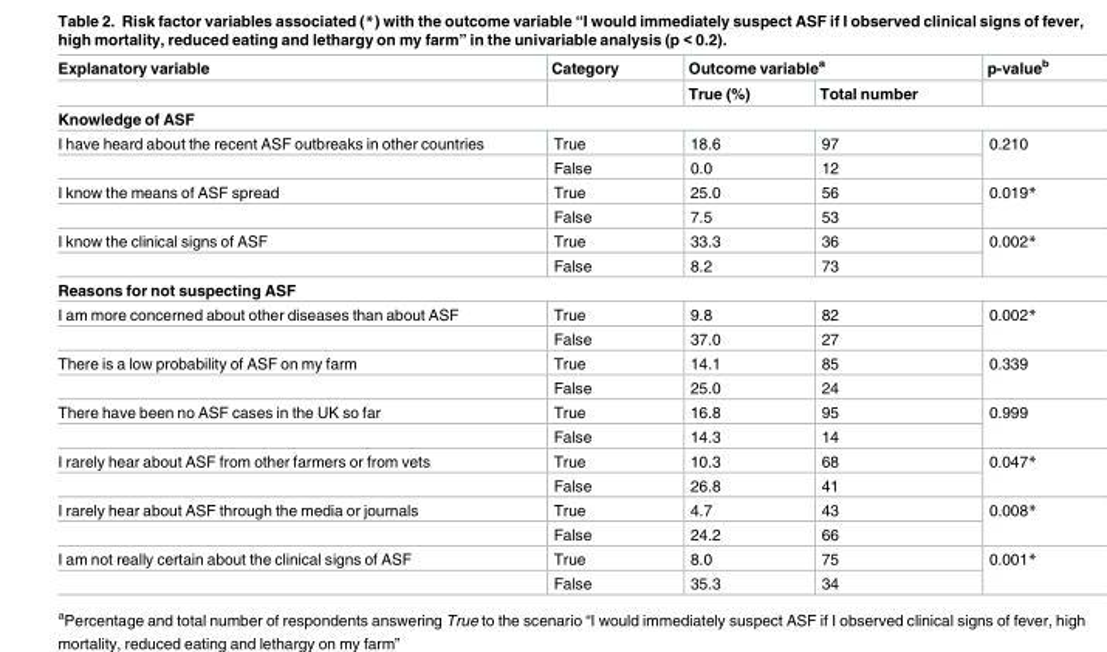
<table><thead><tr><td rowspan="2">Explanatory variable</td><td rowspan="2">Category</td><td colspan="2">Outcome variable<sup>a</sup></td><td rowspan="2">p-value<sup>b</sup></td></tr><tr><td>True (%)</td><td>Total number</td></tr></thead><tbody><tr><td colspan="5">Knowledge of ASF</td></tr><tr><td rowspan="2">I have heard about the recent ASF outbreaks in other countries</td><td>True</td><td>18.6</td><td>97</td><td rowspan="2">0.210</td></tr><tr><td>False</td><td>0.0</td><td>12</td></tr><tr><td rowspan="2">I know the means of ASF spread</td><td>True</td><td>25.0</td><td>56</td><td rowspan="2">0.019*</td></tr><tr><td>False</td><td>7.5</td><td>53</td></tr><tr><td rowspan="2">I know the clinical signs of ASF</td><td>True</td><td>33.3</td><td>36</td><td rowspan="2">0.002*</td></tr><tr><td>False</td><td>8.2</td><td>73</td></tr><tr><td colspan="5">Reasons for not suspecting ASF</td></tr><tr><td rowspan="2">I am more concerned about other diseases than about ASF</td><td>True</td><td>9.8</td><td>82</td><td rowspan="2">0.002*</td></tr><tr><td>False</td><td>37.0</td><td>27</td></tr><tr><td rowspan="2">There is a low probability of ASF on my farm</td><td>True</td><td>14.1</td><td>85</td><td rowspan="2">0.339</td></tr><tr><td>False</td><td>25.0</td><td>24</td></tr><tr><td rowspan="2">There have been no ASF cases in the UK so far</td><td>True</td><td>16.8</td><td>95</td><td rowspan="2">0.999</td></tr><tr><td>False</td><td>14.3</td><td>14</td></tr><tr><td rowspan="2">I rarely hear about ASF from other farmers or from vets</td><td>True</td><td>10.3</td><td>68</td><td rowspan="2">0.047*</td></tr><tr><td>False</td><td>26.8</td><td>41</td></tr><tr><td rowspan="2">I rarely hear about ASF through the media or journals</td><td>True</td><td>4.7</td><td>43</td><td rowspan="2">0.008*</td></tr><tr><td>False</td><td>24.2</td><td>66</td></tr><tr><td rowspan="2">I am not really certain about the clinical signs of ASF</td><td>True</td><td>8.0</td><td>75</td><td rowspan="2">0.001*</td></tr><tr><td>False</td><td>35.3</td><td>34</td></tr></tbody></table>